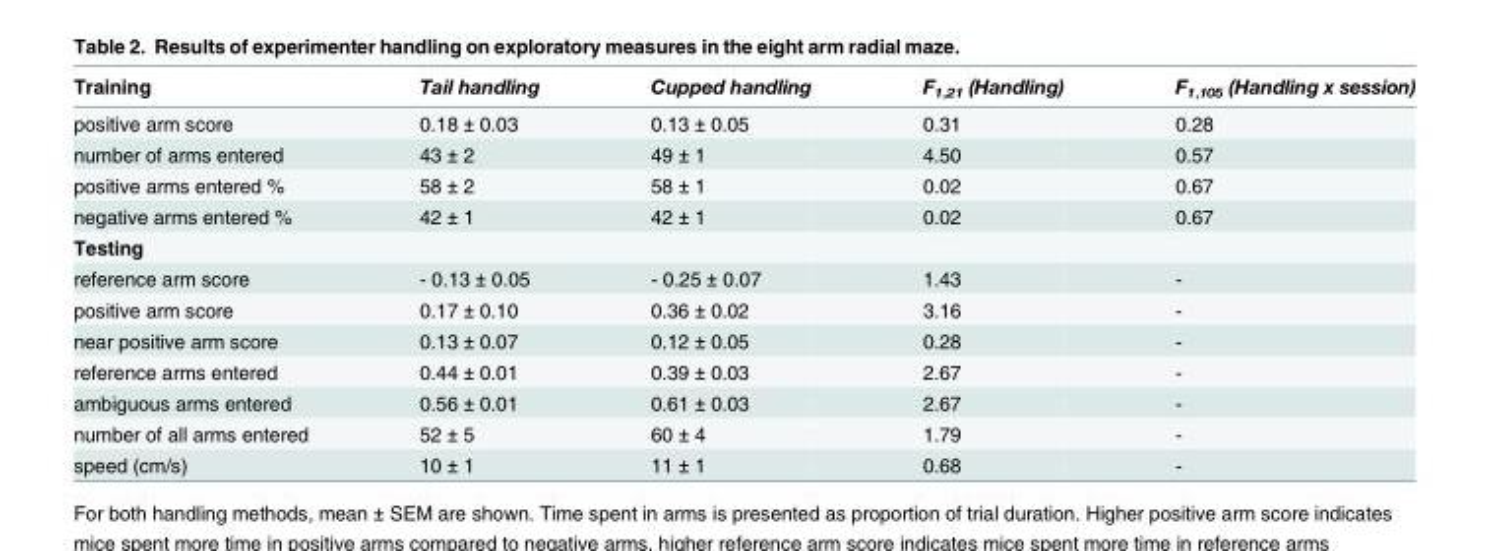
<table><thead><tr><td>Training</td><td>Tail handling</td><td>Cupped handling</td><td>F<sub>1</sub>,<sub>21</sub> (Handling)</td><td>F<sub>1</sub>,<sub>105</sub> (Handling x session)</td></tr></thead><tbody><tr><td>positive arm score</td><td>0.18 ± 0.03</td><td>0.13 ± 0.05</td><td>0.31</td><td>0.28</td></tr><tr><td>number of arms entered</td><td>43 ± 2</td><td>49 ± 1</td><td>4.50</td><td>0.57</td></tr><tr><td>positive arms entered %</td><td>58 ± 2</td><td>58 ± 1</td><td>0.02</td><td>0.67</td></tr><tr><td>negative arms entered %</td><td>42 ± 1</td><td>42 ± 1</td><td>0.02</td><td>0.67</td></tr><tr><td colspan="5">Testing</td></tr><tr><td>reference arm score</td><td>- 0.13 ± 0.05</td><td>- 0.25 ± 0.07</td><td>1.43</td><td>-</td></tr><tr><td>positive arm score</td><td>0.17 ± 0.10</td><td>0.36 ± 0.02</td><td>3.16</td><td>-</td></tr><tr><td>near positive arm score</td><td>0.13 ± 0.07</td><td>0.12 ± 0.05</td><td>0.28</td><td>-</td></tr><tr><td>reference arms entered</td><td>0.44 ± 0.01</td><td>0.39 ± 0.03</td><td>2.67</td><td>-</td></tr><tr><td>ambiguous arms entered</td><td>0.56 ± 0.01</td><td>0.61 ± 0.03</td><td>2.67</td><td>-</td></tr><tr><td>number of all arms entered</td><td>52 ± 5</td><td>60 ± 4</td><td>1.79</td><td>-</td></tr><tr><td>speed (cm/s)</td><td>10 ± 1</td><td>11 ± 1</td><td>0.68</td><td>-</td></tr></tbody></table>